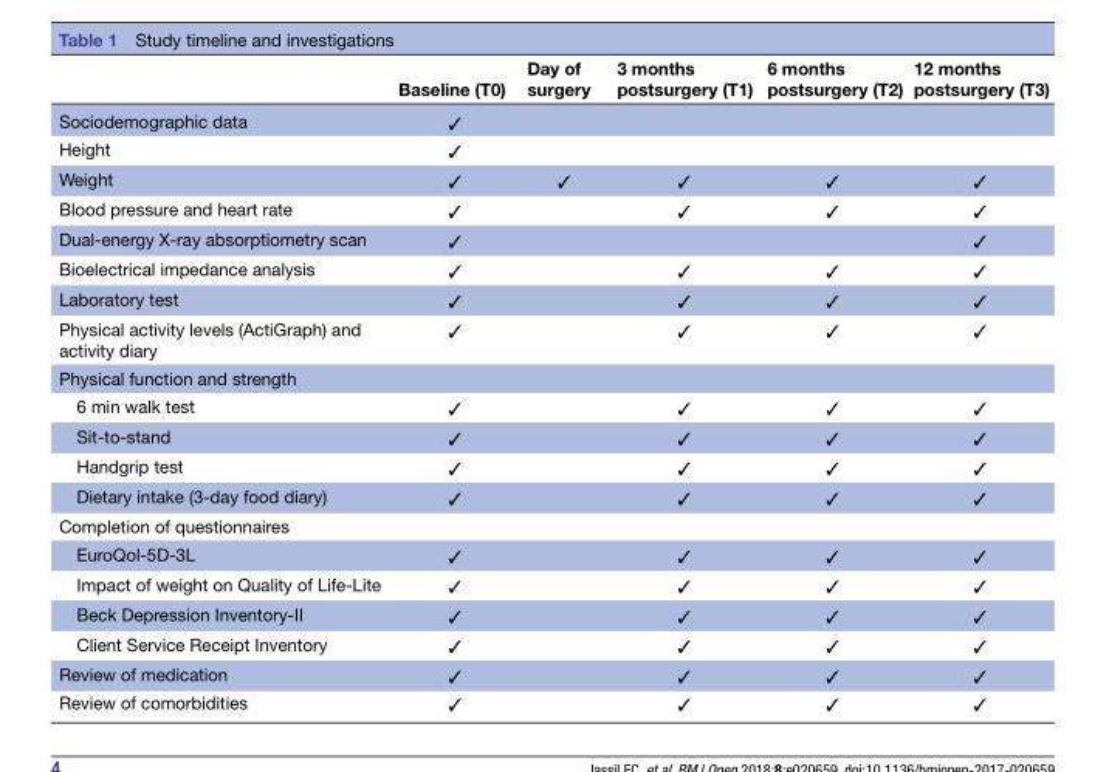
<table><thead><tr><td></td><td>Baseline (T0)</td><td>Day of surgery</td><td>3 months postsurgery (T1)</td><td>6 months postsurgery (T2)</td><td>12 months postsurgery (T3)</td></tr></thead><tbody><tr><td>Sociodemographic data</td><td>✓</td><td></td><td></td><td></td><td></td></tr><tr><td>Height</td><td>✓</td><td></td><td></td><td></td><td></td></tr><tr><td>Weight</td><td>✓</td><td>✓</td><td>✓</td><td>✓</td><td>✓</td></tr><tr><td>Blood pressure and heart rate</td><td>✓</td><td></td><td>✓</td><td>✓</td><td>✓</td></tr><tr><td>Dual-energy X-ray absorptiometry scan</td><td>✓</td><td></td><td></td><td></td><td>✓</td></tr><tr><td>Bioelectrical impedance analysis</td><td>✓</td><td></td><td>✓</td><td>✓</td><td>✓</td></tr><tr><td>Laboratory test</td><td>✓</td><td></td><td>✓</td><td>✓</td><td>✓</td></tr><tr><td>Physical activity levels (ActiGraph) and activity diary</td><td>✓</td><td></td><td>✓</td><td>✓</td><td>✓</td></tr><tr><td colspan="6">Physical function and strength</td></tr><tr><td>6 min walk test</td><td>✓</td><td></td><td>✓</td><td>✓</td><td>✓</td></tr><tr><td>Sit-to-stand</td><td>✓</td><td></td><td>✓</td><td>✓</td><td>✓</td></tr><tr><td>Handgrip test</td><td>✓</td><td></td><td>✓</td><td>✓</td><td>✓</td></tr><tr><td>Dietary intake (3-day food diary)</td><td>✓</td><td></td><td>✓</td><td>✓</td><td>✓</td></tr><tr><td colspan="6">Completion of questionnaires</td></tr><tr><td>EuroQol-5D-3L</td><td>✓</td><td></td><td>✓</td><td>✓</td><td>✓</td></tr><tr><td>Impact of weight on Quality of Life-Lite</td><td>✓</td><td></td><td>✓</td><td>✓</td><td>✓</td></tr><tr><td>Beck Depression Inventory-II</td><td>✓</td><td></td><td>✓</td><td>✓</td><td>✓</td></tr><tr><td>Client Service Receipt Inventory</td><td>✓</td><td></td><td>✓</td><td>✓</td><td>✓</td></tr><tr><td>Review of medication</td><td>✓</td><td></td><td>✓</td><td>✓</td><td>✓</td></tr><tr><td>Review of comorbidities</td><td>✓</td><td></td><td>✓</td><td>✓</td><td>✓</td></tr></tbody></table>